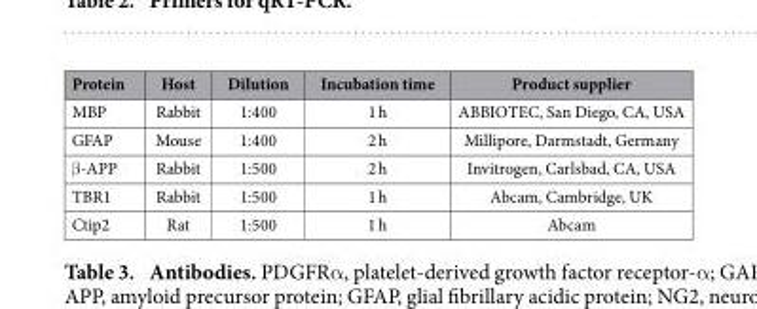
<table><thead><tr><td>Protein</td><td>Host</td><td>Dilution</td><td>Incubation time</td><td>Product supplier</td></tr></thead><tbody><tr><td>MBP</td><td>Rabbit</td><td>1:400</td><td>1 h</td><td>ABBIOTEC, San Diego, CA, USA</td></tr><tr><td>GFAP</td><td>Mouse</td><td>1:400</td><td>2 h</td><td>Millipore, Darmstadt, Germany</td></tr><tr><td>β -APP</td><td>Rabbit</td><td>1:500</td><td>2 h</td><td>Invitrogen, Carlsbad, CA, USA</td></tr><tr><td>TBR1</td><td>Rabbit</td><td>1:500</td><td>1 h</td><td>Abcam, Cambridge, UK</td></tr><tr><td>Ctip2</td><td>Rat</td><td>1:500</td><td>1 h</td><td>Abcam</td></tr></tbody></table>